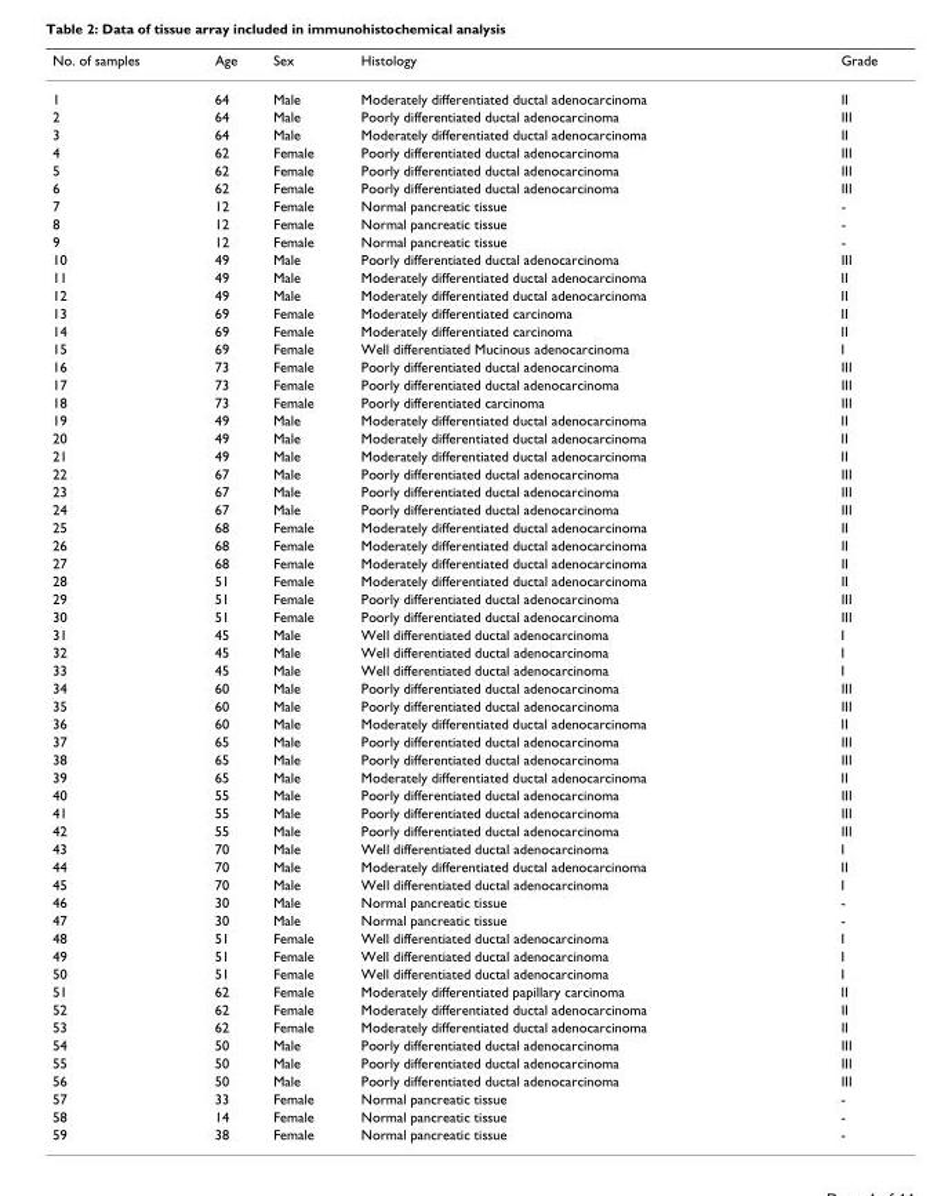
<table><thead><tr><td>No. of samples</td><td>Age</td><td>Sex</td><td>Histology</td><td>Grade</td></tr></thead><tbody><tr><td>1</td><td>64</td><td>Male</td><td>Moderately differentiated ductal adenocarcinoma</td><td>II</td></tr><tr><td>2</td><td>64</td><td>Male</td><td>Poorly differentiated ductal adenocarcinoma</td><td>III</td></tr><tr><td>3</td><td>64</td><td>Male</td><td>Moderately differentiated ductal adenocarcinoma</td><td>II</td></tr><tr><td>4</td><td>62</td><td>Female</td><td>Poorly differentiated ductal adenocarcinoma</td><td>III</td></tr><tr><td>5</td><td>62</td><td>Female</td><td>Poorly differentiated ductal adenocarcinoma</td><td>III</td></tr><tr><td>6</td><td>62</td><td>Female</td><td>Poorly differentiated ductal adenocarcinoma</td><td>III</td></tr><tr><td>7</td><td>12</td><td>Female</td><td>Normal pancreatic tissue</td><td>-</td></tr><tr><td>8</td><td>12</td><td>Female</td><td>Normal pancreatic tissue</td><td>-</td></tr><tr><td>9</td><td>12</td><td>Female</td><td>Normal pancreatic tissue</td><td>-</td></tr><tr><td>10</td><td>49</td><td>Male</td><td>Poorly differentiated ductal adenocarcinoma</td><td>III</td></tr><tr><td>11</td><td>49</td><td>Male</td><td>Moderately differentiated ductal adenocarcinoma</td><td>II</td></tr><tr><td>12</td><td>49</td><td>Male</td><td>Moderately differentiated ductal adenocarcinoma</td><td>II</td></tr><tr><td>13</td><td>69</td><td>Female</td><td>Moderately differentiated carcinoma</td><td>II</td></tr><tr><td>14</td><td>69</td><td>Female</td><td>Moderately differentiated carcinoma</td><td>II</td></tr><tr><td>15</td><td>69</td><td>Female</td><td>Well differentiated Mucinous adenocarcinoma</td><td>I</td></tr><tr><td>16</td><td>73</td><td>Female</td><td>Poorly differentiated ductal adenocarcinoma</td><td>III</td></tr><tr><td>17</td><td>73</td><td>Female</td><td>Poorly differentiated ductal adenocarcinoma</td><td>III</td></tr><tr><td>18</td><td>73</td><td>Female</td><td>Poorly differentiated carcinoma</td><td>III</td></tr><tr><td>19</td><td>49</td><td>Male</td><td>Moderately differentiated ductal adenocarcinoma</td><td>II</td></tr><tr><td>20</td><td>49</td><td>Male</td><td>Moderately differentiated ductal adenocarcinoma</td><td>II</td></tr><tr><td>21</td><td>49</td><td>Male</td><td>Moderately differentiated ductal adenocarcinoma</td><td>II</td></tr><tr><td>22</td><td>67</td><td>Male</td><td>Poorly differentiated ductal adenocarcinoma</td><td>III</td></tr><tr><td>23</td><td>67</td><td>Male</td><td>Poorly differentiated ductal adenocarcinoma</td><td>III</td></tr><tr><td>24</td><td>67</td><td>Male</td><td>Poorly differentiated ductal adenocarcinoma</td><td>III</td></tr><tr><td>25</td><td>68</td><td>Female</td><td>Moderately differentiated ductal adenocarcinoma</td><td>II</td></tr><tr><td>26</td><td>68</td><td>Female</td><td>Moderately differentiated ductal adenocarcinoma</td><td>II</td></tr><tr><td>27</td><td>68</td><td>Female</td><td>Moderately differentiated ductal adenocarcinoma</td><td>II</td></tr><tr><td>28</td><td>51</td><td>Female</td><td>Moderately differentiated ductal adenocarcinoma</td><td>II</td></tr><tr><td>29</td><td>51</td><td>Female</td><td>Poorly differentiated ductal adenocarcinoma</td><td>III</td></tr><tr><td>30</td><td>51</td><td>Female</td><td>Poorly differentiated ductal adenocarcinoma</td><td>III</td></tr><tr><td>31</td><td>45</td><td>Male</td><td>Well differentiated ductal adenocarcinoma</td><td>I</td></tr><tr><td>32</td><td>45</td><td>Male</td><td>Well differentiated ductal adenocarcinoma</td><td>I</td></tr><tr><td>33</td><td>45</td><td>Male</td><td>Well differentiated ductal adenocarcinoma</td><td>I</td></tr><tr><td>34</td><td>60</td><td>Male</td><td>Poorly differentiated ductal adenocarcinoma</td><td>III</td></tr><tr><td>35</td><td>60</td><td>Male</td><td>Poorly differentiated ductal adenocarcinoma</td><td>III</td></tr><tr><td>36</td><td>60</td><td>Male</td><td>Moderately differentiated ductal adenocarcinoma</td><td>II</td></tr><tr><td>37</td><td>65</td><td>Male</td><td>Poorly differentiated ductal adenocarcinoma</td><td>III</td></tr><tr><td>38</td><td>65</td><td>Male</td><td>Poorly differentiated ductal adenocarcinoma</td><td>III</td></tr><tr><td>39</td><td>65</td><td>Male</td><td>Moderately differentiated ductal adenocarcinoma</td><td>II</td></tr><tr><td>40</td><td>55</td><td>Male</td><td>Poorly differentiated ductal adenocarcinoma</td><td>III</td></tr><tr><td>41</td><td>55</td><td>Male</td><td>Poorly differentiated ductal adenocarcinoma</td><td>III</td></tr><tr><td>42</td><td>55</td><td>Male</td><td>Poorly differentiated ductal adenocarcinoma</td><td>III</td></tr><tr><td>43</td><td>70</td><td>Male</td><td>Well differentiated ductal adenocarcinoma</td><td>I</td></tr><tr><td>44</td><td>70</td><td>Male</td><td>Moderately differentiated ductal adenocarcinoma</td><td>II</td></tr><tr><td>45</td><td>70</td><td>Male</td><td>Well differentiated ductal adenocarcinoma</td><td>I</td></tr><tr><td>46</td><td>30</td><td>Male</td><td>Normal pancreatic tissue</td><td>-</td></tr><tr><td>47</td><td>30</td><td>Male</td><td>Normal pancreatic tissue</td><td>-</td></tr><tr><td>48</td><td>51</td><td>Female</td><td>Well differentiated ductal adenocarcinoma</td><td>I</td></tr><tr><td>49</td><td>51</td><td>Female</td><td>Well differentiated ductal adenocarcinoma</td><td>I</td></tr><tr><td>50</td><td>51</td><td>Female</td><td>Well differentiated ductal adenocarcinoma</td><td>I</td></tr><tr><td>51</td><td>62</td><td>Female</td><td>Moderately differentiated papillary carcinoma</td><td>II</td></tr><tr><td>52</td><td>62</td><td>Female</td><td>Moderately differentiated ductal adenocarcinoma</td><td>II</td></tr><tr><td>53</td><td>62</td><td>Female</td><td>Moderately differentiated ductal adenocarcinoma</td><td>II</td></tr><tr><td>54</td><td>50</td><td>Male</td><td>Poorly differentiated ductal adenocarcinoma</td><td>III</td></tr><tr><td>55</td><td>50</td><td>Male</td><td>Poorly differentiated ductal adenocarcinoma</td><td>III</td></tr><tr><td>56</td><td>50</td><td>Male</td><td>Poorly differentiated ductal adenocarcinoma</td><td>III</td></tr><tr><td>57</td><td>33</td><td>Female</td><td>Normal pancreatic tissue</td><td>-</td></tr><tr><td>58</td><td>14</td><td>Female</td><td>Normal pancreatic tissue</td><td>-</td></tr><tr><td>59</td><td>38</td><td>Female</td><td>Normal pancreatic tissue</td><td>-</td></tr></tbody></table>